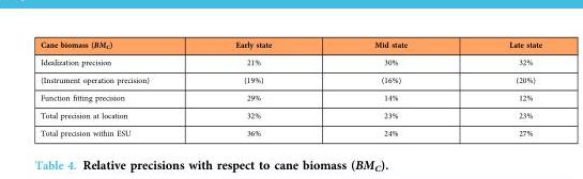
<table><thead><tr><td>Cane biomass (BM<sub>C</sub>)</td><td>Early state</td><td>Mid state</td><td>Late state</td></tr></thead><tbody><tr><td>Idealization precision</td><td>21%</td><td>30%</td><td>32%</td></tr><tr><td>(Instrument operation precision)</td><td>(19%)</td><td>(16%)</td><td>(20%)</td></tr><tr><td>Function fitting precision</td><td>29%</td><td>14%</td><td>12%</td></tr><tr><td>Total precision at location</td><td>32%</td><td>23%</td><td>23%</td></tr><tr><td>Total precision within ESU</td><td>36%</td><td>24%</td><td>27%</td></tr></tbody></table>